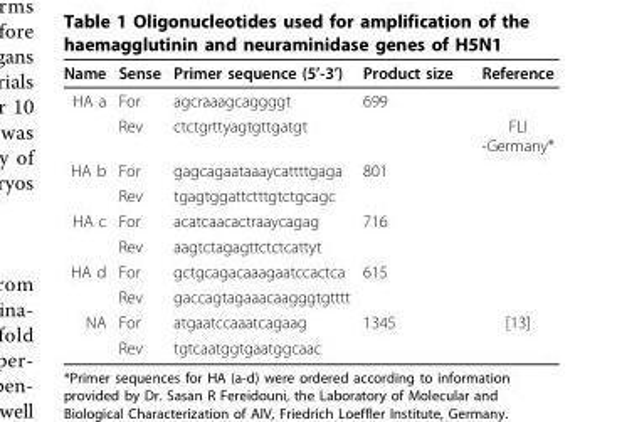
<table><thead><tr><td>Name</td><td>Sense</td><td>Primer sequence (5’-3’)</td><td>Product size</td><td>Reference</td></tr></thead><tbody><tr><td rowspan="2">HA a</td><td>For</td><td>agcraaagcaggggt</td><td>699</td><td></td></tr><tr><td>Rev</td><td>ctctgrttyagtgttgatgt</td><td></td><td>FLI -Germany*</td></tr><tr><td rowspan="2">HA b</td><td>For</td><td>gagcagaataaaycattttgaga</td><td>801</td><td></td></tr><tr><td>Rev</td><td>tgagtggattctttgtctgcagc</td><td></td><td></td></tr><tr><td rowspan="2">HA c</td><td>For</td><td>acatcaacactraaycagag</td><td>716</td><td></td></tr><tr><td>Rev</td><td>aagtctagagttctctcattyt</td><td></td><td></td></tr><tr><td rowspan="2">HA d</td><td>For</td><td>gctgcagacaaagaatccactca</td><td>615</td><td></td></tr><tr><td>Rev</td><td>gaccagtagaaacaagggtgtttt</td><td></td><td></td></tr><tr><td rowspan="2">NA</td><td>For</td><td>atgaatccaaatcagaag</td><td>1345</td><td>[13]</td></tr><tr><td>Rev</td><td>tgtcaatggtgaatggcaac</td><td></td><td></td></tr></tbody></table>